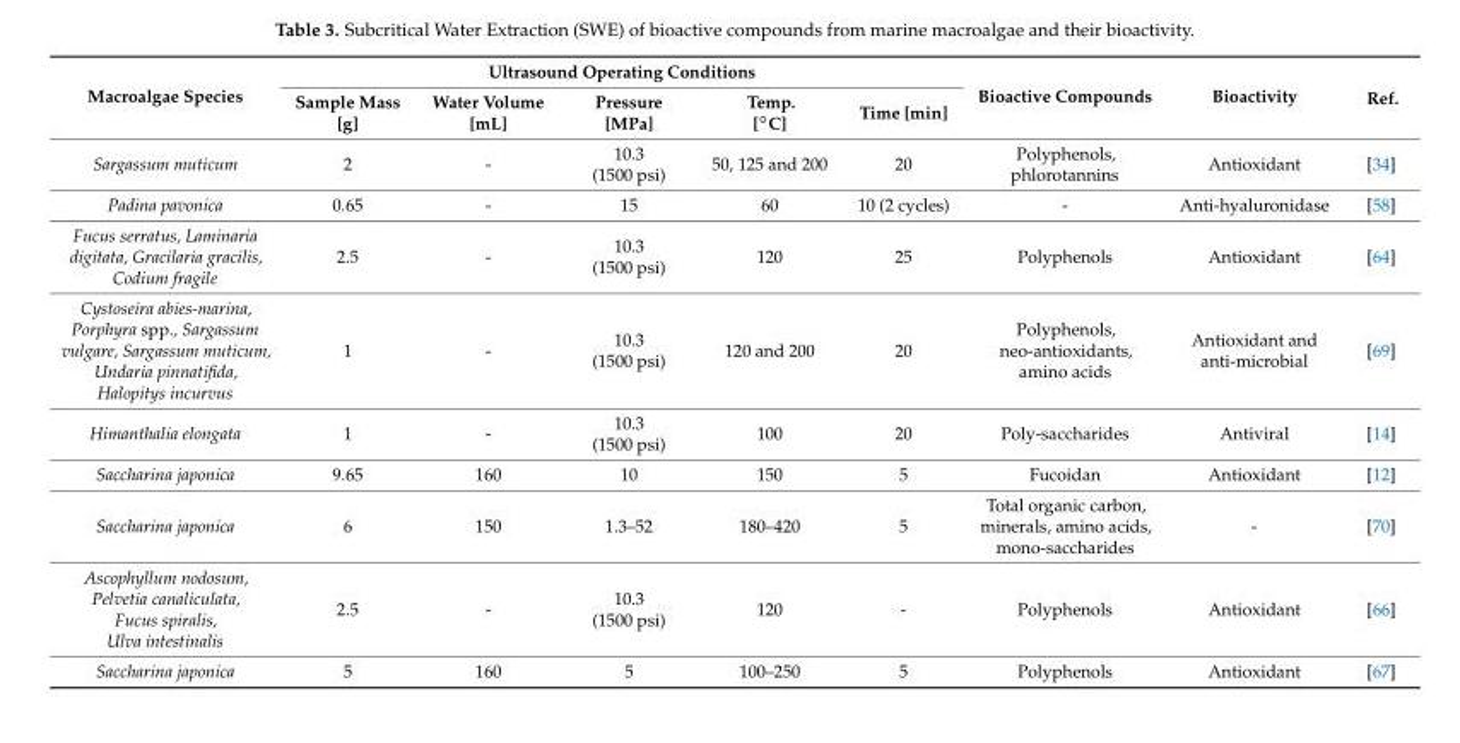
<table><thead><tr><td rowspan="2">Macroalgae Species</td><td colspan="5">Ultrasound Operating Conditions</td><td rowspan="2">Bioactive Compounds</td><td rowspan="2">Bioactivity</td><td rowspan="2">Ref.</td></tr><tr><td>Sample Mass [g]</td><td>Water Volume [mL]</td><td>Pressure [MPa]</td><td>Temp. [◦C]</td><td>Time [min]</td></tr></thead><tbody><tr><td>Sargassum muticum</td><td>2</td><td>-</td><td>10.3 (1500 psi)</td><td>50, 125 and 200</td><td>20</td><td>Polyphenols, phlorotannins</td><td>Antioxidant</td><td>[34]</td></tr><tr><td>Padina pavonica</td><td>0.65</td><td>-</td><td>15</td><td>60</td><td>10 (2 cycles)</td><td>-</td><td>Anti-hyaluronidase</td><td>[58]</td></tr><tr><td>Fucus serratus, Laminaria digitata, Gracilaria gracilis, Codium fragile</td><td>2.5</td><td>-</td><td>10.3 (1500 psi)</td><td>120</td><td>25</td><td>Polyphenols</td><td>Antioxidant</td><td>[64]</td></tr><tr><td>Cystoseira abies-marina, Porphyra spp., Sargassum vulgare, Sargassum muticum, Undaria pinnatifida, Halopitys incurvus</td><td>1</td><td>-</td><td>10.3 (1500 psi)</td><td>120 and 200</td><td>20</td><td>Polyphenols, neo-antioxidants, amino acids</td><td>Antioxidant and anti-microbial</td><td>[69]</td></tr><tr><td>Himanthalia elongata</td><td>1</td><td>-</td><td>10.3 (1500 psi)</td><td>100</td><td>20</td><td>Poly-saccharides</td><td>Antiviral</td><td>[14]</td></tr><tr><td>Saccharina japonica</td><td>9.65</td><td>160</td><td>10</td><td>150</td><td>5</td><td>Fucoidan</td><td>Antioxidant</td><td>[12]</td></tr><tr><td>Saccharina japonica</td><td>6</td><td>150</td><td>1.3–52</td><td>180–420</td><td>5</td><td>Total organic carbon, minerals, amino acids, mono-saccharides</td><td>-</td><td>[70]</td></tr><tr><td>Ascophyllum nodosum, Pelvetia canaliculata, Fucus spiralis, Ulva intestinalis</td><td>2.5</td><td>-</td><td>10.3 (1500 psi)</td><td>120</td><td>-</td><td>Polyphenols</td><td>Antioxidant</td><td>[66]</td></tr><tr><td>Saccharina japonica</td><td>5</td><td>160</td><td>5</td><td>100–250</td><td>5</td><td>Polyphenols</td><td>Antioxidant</td><td>[67]</td></tr></tbody></table>